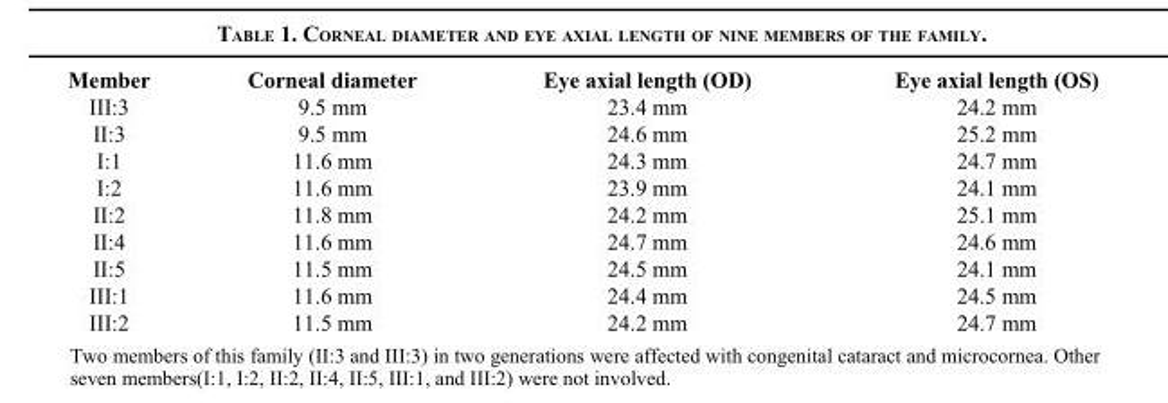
<table><thead><tr><td>Member</td><td>Corneal diameter</td><td>Eye axial length (OD)</td><td>Eye axial length (OS)</td></tr></thead><tbody><tr><td>III:3</td><td>9.5 mm</td><td>23.4 mm</td><td>24.2 mm</td></tr><tr><td>II:3</td><td>9.5 mm</td><td>24.6 mm</td><td>25.2 mm</td></tr><tr><td>I:1</td><td>11.6 mm</td><td>24.3 mm</td><td>24.7 mm</td></tr><tr><td>I:2</td><td>11.6 mm</td><td>23.9 mm</td><td>24.1 mm</td></tr><tr><td>II:2</td><td>11.8 mm</td><td>24.2 mm</td><td>25.1 mm</td></tr><tr><td>II:4</td><td>11.6 mm</td><td>24.7 mm</td><td>24.6 mm</td></tr><tr><td>II:5</td><td>11.5 mm</td><td>24.5 mm</td><td>24.1 mm</td></tr><tr><td>III:1</td><td>11.6 mm</td><td>24.4 mm</td><td>24.5 mm</td></tr><tr><td>III:2</td><td>11.5 mm</td><td>24.2 mm</td><td>24.7 mm</td></tr></tbody></table>